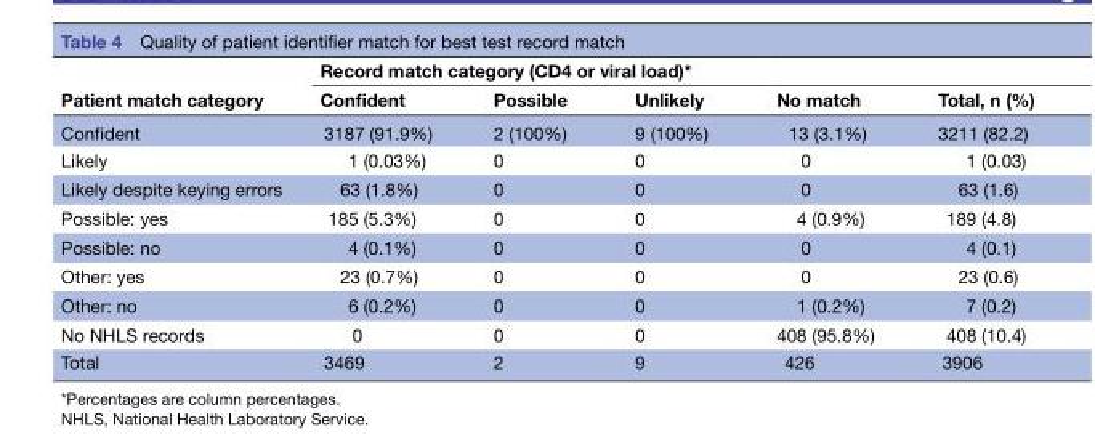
<table><thead><tr><td rowspan="2">Patient match category</td><td colspan="5">Record match category (CD4 or viral load)*</td></tr><tr><td>Confident</td><td>Possible</td><td>Unlikely</td><td>No match</td><td>Total, n (%)</td></tr></thead><tbody><tr><td>Confident</td><td>3187 (91.9%)</td><td>2 (100%)</td><td>9 (100%)</td><td>13 (3.1%)</td><td>3211 (82.2)</td></tr><tr><td>Likely</td><td>1 (0.03%)</td><td>0</td><td>0</td><td>0</td><td>1 (0.03)</td></tr><tr><td>Likely despite keying errors</td><td>63 (1.8%)</td><td>0</td><td>0</td><td>0</td><td>63 (1.6)</td></tr><tr><td>Possible: yes</td><td>185 (5.3%)</td><td>0</td><td>0</td><td>4 (0.9%)</td><td>189 (4.8)</td></tr><tr><td>Possible: no</td><td>4 (0.1%)</td><td>0</td><td>0</td><td>0</td><td>4 (0.1)</td></tr><tr><td>Other: yes</td><td>23 (0.7%)</td><td>0</td><td>0</td><td>0</td><td>23 (0.6)</td></tr><tr><td>Other: no</td><td>6 (0.2%)</td><td>0</td><td>0</td><td>1 (0.2%)</td><td>7 (0.2)</td></tr><tr><td>No NHLS records</td><td>0</td><td>0</td><td>0</td><td>408 (95.8%)</td><td>408 (10.4)</td></tr><tr><td>Total</td><td>3469</td><td>2</td><td>9</td><td>426</td><td>3906</td></tr></tbody></table>